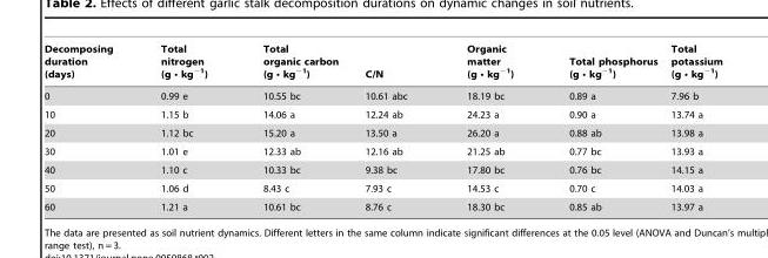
<table><thead><tr><td>Decomposing duration (days)</td><td>Total nitrogen (g • kg<sup>−1</sup>)</td><td>Total organic carbon (g • kg<sup>−1</sup>)</td><td>C/N</td><td>Organic matter (g • kg<sup>−1</sup>)</td><td>Total phosphorus (g • kg<sup>−1</sup>)</td><td>Total potassium (g • kg<sup>−1</sup>)</td></tr></thead><tbody><tr><td>0</td><td>0.99 e</td><td>10.55 bc</td><td>10.61 abc</td><td>18.19 bc</td><td>0.89 a</td><td>7.96 b</td></tr><tr><td>10</td><td>1.15 b</td><td>14.06 a</td><td>12.24 ab</td><td>24.23 a</td><td>0.90 a</td><td>13.74 a</td></tr><tr><td>20</td><td>1.12 bc</td><td>15.20 a</td><td>13.50 a</td><td>26.20 a</td><td>0.88 ab</td><td>13.98 a</td></tr><tr><td>30</td><td>1.01 e</td><td>12.33 ab</td><td>12.16 ab</td><td>21.25 ab</td><td>0.77 bc</td><td>13.93 a</td></tr><tr><td>40</td><td>1.10 c</td><td>10.33 bc</td><td>9.38 bc</td><td>17.80 bc</td><td>0.76 bc</td><td>14.15 a</td></tr><tr><td>50</td><td>1.06 d</td><td>8.43 c</td><td>7.93 c</td><td>14.53 c</td><td>0.70 c</td><td>14.03 a</td></tr><tr><td>60</td><td>1.21 a</td><td>10.61 bc</td><td>8.76 c</td><td>18.30 bc</td><td>0.85 ab</td><td>13.97 a</td></tr></tbody></table>